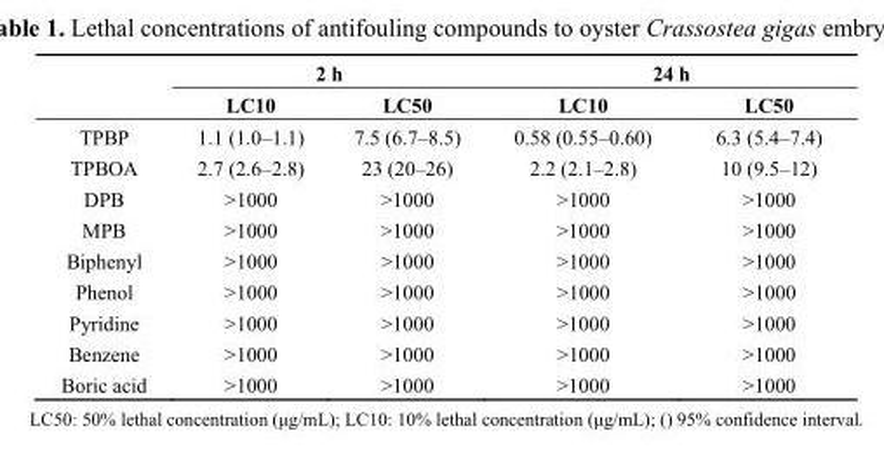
<table><thead><tr><td rowspan="2"></td><td colspan="2">2 h</td><td colspan="2">24 h</td></tr><tr><td>LC10</td><td>LC50</td><td>LC10</td><td>LC50</td></tr></thead><tbody><tr><td>TPBP</td><td>1.1 (1.0–1.1)</td><td>7.5 (6.7–8.5)</td><td>0.58 (0.55–0.60)</td><td>6.3 (5.4–7.4)</td></tr><tr><td>TPBOA</td><td>2.7 (2.6–2.8)</td><td>23 (20–26)</td><td>2.2 (2.1–2.8)</td><td>10 (9.5–12)</td></tr><tr><td>DPB</td><td>&gt;1000</td><td>&gt;1000</td><td>&gt;1000</td><td>&gt;1000</td></tr><tr><td>MPB</td><td>&gt;1000</td><td>&gt;1000</td><td>&gt;1000</td><td>&gt;1000</td></tr><tr><td>Biphenyl</td><td>&gt;1000</td><td>&gt;1000</td><td>&gt;1000</td><td>&gt;1000</td></tr><tr><td>Phenol</td><td>&gt;1000</td><td>&gt;1000</td><td>&gt;1000</td><td>&gt;1000</td></tr><tr><td>Pyridine</td><td>&gt;1000</td><td>&gt;1000</td><td>&gt;1000</td><td>&gt;1000</td></tr><tr><td>Benzene</td><td>&gt;1000</td><td>&gt;1000</td><td>&gt;1000</td><td>&gt;1000</td></tr><tr><td>Boric acid</td><td>&gt;1000</td><td>&gt;1000</td><td>&gt;1000</td><td>&gt;1000</td></tr></tbody></table>